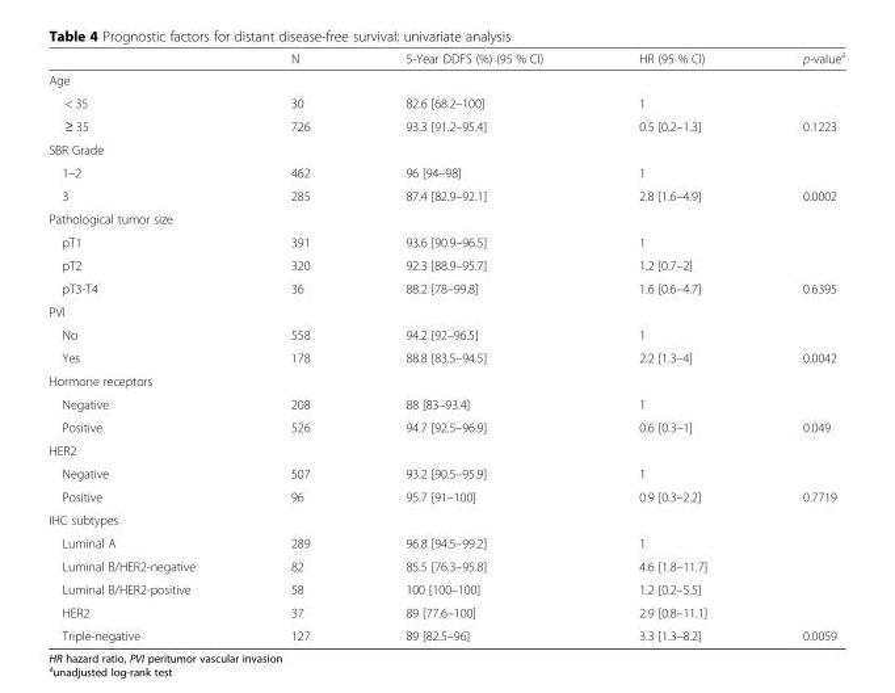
<table><thead><tr><td></td><td>N</td><td>5-Year DDFS (%) (95 % CI)</td><td>HR (95 % CI)</td><td>p-value<sup>a</sup></td></tr></thead><tbody><tr><td colspan="5">Age</td></tr><tr><td>&lt; 35</td><td>30</td><td>82.6 [68.2–100]</td><td>1</td><td></td></tr><tr><td>≥ 35</td><td>726</td><td>93.3 [91.2–95.4]</td><td>0.5 [0.2–1.3]</td><td>0.1223</td></tr><tr><td colspan="5">SBR Grade</td></tr><tr><td>1–2</td><td>462</td><td>96 [94–98]</td><td>1</td><td></td></tr><tr><td>3</td><td>285</td><td>87.4 [82.9–92.1]</td><td>2.8 [1.6–4.9]</td><td>0.0002</td></tr><tr><td colspan="5">Pathological tumor size</td></tr><tr><td>pT1</td><td>391</td><td>93.6 [90.9–96.5]</td><td>1</td><td></td></tr><tr><td>pT2</td><td>320</td><td>92.3 [88.9–95.7]</td><td>1.2 [0.7–2]</td><td></td></tr><tr><td>pT3-T4</td><td>36</td><td>88.2 [78–99.8]</td><td>1.6 [0.6–4.7]</td><td>0.6395</td></tr><tr><td colspan="5">PVI</td></tr><tr><td>No</td><td>558</td><td>94.2 [92–96.5]</td><td>1</td><td></td></tr><tr><td>Yes</td><td>178</td><td>88.8 [83.5–94.5]</td><td>2.2 [1.3–4]</td><td>0.0042</td></tr><tr><td colspan="5">Hormone receptors</td></tr><tr><td>Negative</td><td>208</td><td>88 [83–93.4]</td><td>1</td><td></td></tr><tr><td>Positive</td><td>526</td><td>94.7 [92.5–96.9]</td><td>0.6 [0.3–1]</td><td>0.049</td></tr><tr><td colspan="5">HER2</td></tr><tr><td>Negative</td><td>507</td><td>93.2 [90.5–95.9]</td><td>1</td><td></td></tr><tr><td>Positive</td><td>96</td><td>95.7 [91–100]</td><td>0.9 [0.3–2.2]</td><td>0.7719</td></tr><tr><td colspan="5">IHC subtypes</td></tr><tr><td>Luminal A</td><td>289</td><td>96.8 [94.5–99.2]</td><td>1</td><td></td></tr><tr><td>Luminal B/HER2-negative</td><td>82</td><td>85.5 [76.3–95.8]</td><td>4.6 [1.8–11.7]</td><td></td></tr><tr><td>Luminal B/HER2-positive</td><td>58</td><td>100 [100–100]</td><td>1.2 [0.2–5.5]</td><td></td></tr><tr><td>HER2</td><td>37</td><td>89 [77.6–100]</td><td>2.9 [0.8–11.1]</td><td></td></tr><tr><td>Triple-negative</td><td>127</td><td>89 [82.5–96]</td><td>3.3 [1.3–8.2]</td><td>0.0059</td></tr></tbody></table>